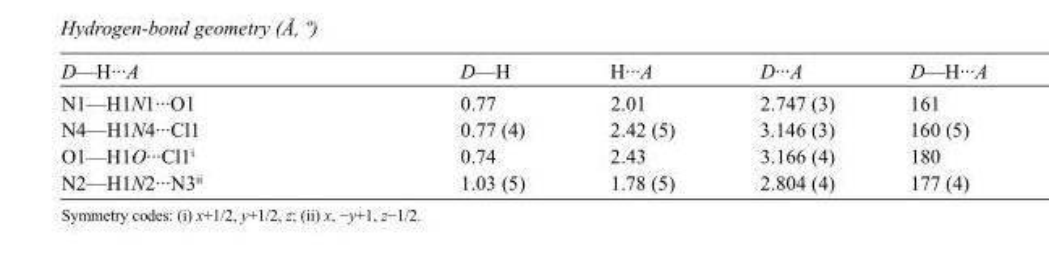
<table><tbody><tr><td>D—H···A</td><td>D—H</td><td>H···A</td><td>D···A</td><td>D—H···A</td></tr><tr><td>N1—H1N1···O1</td><td>0.77</td><td>2.01</td><td>2.747 (3)</td><td>161</td></tr><tr><td>N4—H1N4···Cl1</td><td>0.77 (4)</td><td>2.42 (5)</td><td>3.146 (3)</td><td>160 (5)</td></tr><tr><td>O1—H1O···Cl1<sup>i</sup></td><td>0.74</td><td>2.43</td><td>3.166 (4)</td><td>180</td></tr><tr><td>N2—H1N2···N3<sup>ii</sup></td><td>1.03 (5)</td><td>1.78 (5)</td><td>2.804 (4)</td><td>177 (4)</td></tr></tbody></table>